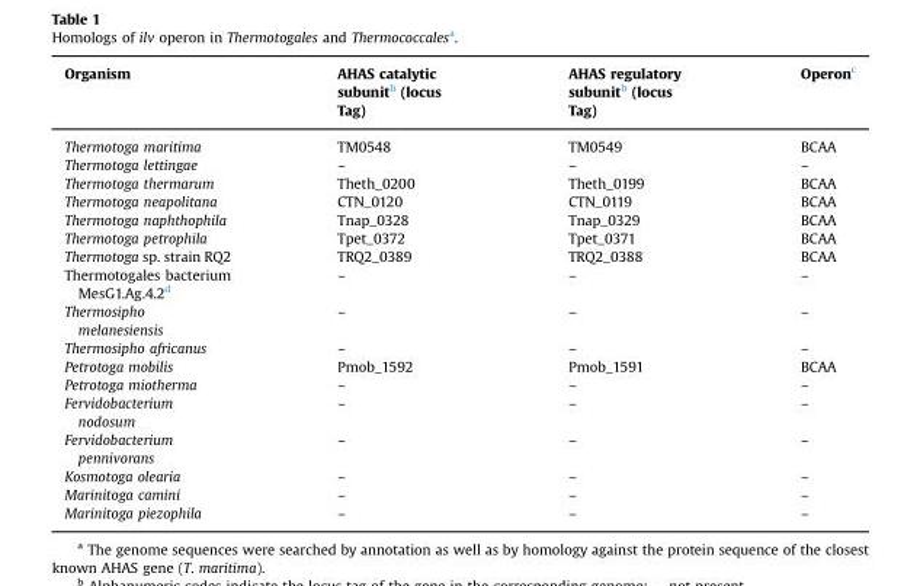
<table><thead><tr><td>Organism</td><td>AHAS catalytic subunit<sup>b</sup> (locus Tag)</td><td>AHAS regulatory subunit<sup>b</sup> (locus Tag)</td><td>Operon<sup>c</sup></td></tr></thead><tbody><tr><td>Thermotoga maritima</td><td>TM0548</td><td>TM0549</td><td>BCAA</td></tr><tr><td>Thermotoga lettingae</td><td>–</td><td>–</td><td>–</td></tr><tr><td>Thermotoga thermarum</td><td>Theth_0200</td><td>Theth_0199</td><td>BCAA</td></tr><tr><td>Thermotoga neapolitana</td><td>CTN_0120</td><td>CTN_0119</td><td>BCAA</td></tr><tr><td>Thermotoga naphthophila</td><td>Tnap_0328</td><td>Tnap_0329</td><td>BCAA</td></tr><tr><td>Thermotoga petrophila</td><td>Tpet_0372</td><td>Tpet_0371</td><td>BCAA</td></tr><tr><td>Thermotoga sp. strain RQ2</td><td>TRQ2_0389</td><td>TRQ2_0388</td><td>BCAA</td></tr><tr><td>Thermotogales bacterium MesG1.Ag.4.2<sup>d</sup></td><td>–</td><td>–</td><td>–</td></tr><tr><td>Thermosipho melanesiensis</td><td>–</td><td>–</td><td>–</td></tr><tr><td>Thermosipho africanus</td><td>–</td><td>–</td><td>–</td></tr><tr><td>Petrotoga mobilis</td><td>Pmob_1592</td><td>Pmob_1591</td><td>BCAA</td></tr><tr><td>Petrotoga miotherma</td><td>–</td><td>–</td><td>–</td></tr><tr><td>Fervidobacterium nodosum</td><td>–</td><td>–</td><td>–</td></tr><tr><td>Fervidobacterium pennivorans</td><td>–</td><td>–</td><td>–</td></tr><tr><td>Kosmotoga olearia</td><td>–</td><td>–</td><td>–</td></tr><tr><td>Marinitoga camini</td><td>–</td><td>–</td><td>–</td></tr><tr><td>Marinitoga piezophila</td><td>–</td><td>–</td><td>–</td></tr></tbody></table>